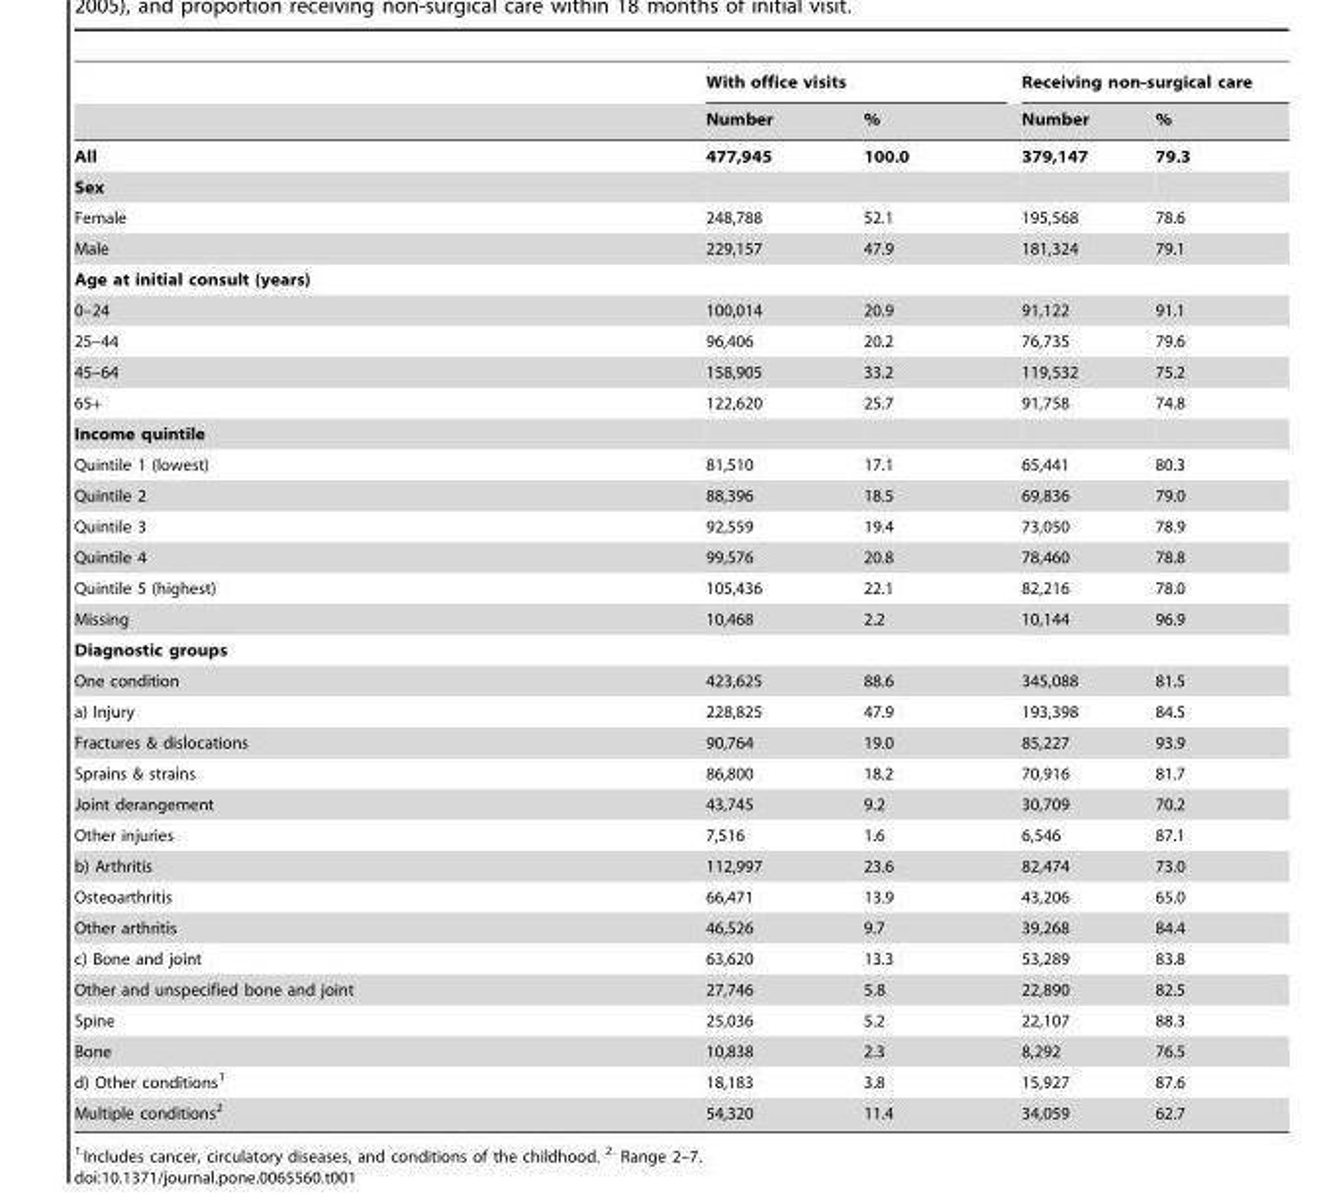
<table><thead><tr><td rowspan="2"></td><td colspan="2">With office visits</td><td colspan="2">Receiving non-surgical care</td></tr><tr><td>Number</td><td>%</td><td>Number</td><td>%</td></tr></thead><tbody><tr><td>All</td><td>477,945</td><td>100.0</td><td>379,147</td><td>79.3</td></tr><tr><td colspan="5">Sex</td></tr><tr><td>Female</td><td>248,788</td><td>52.1</td><td>195,568</td><td>78.6</td></tr><tr><td>Male</td><td>229,157</td><td>47.9</td><td>181,324</td><td>79.1</td></tr><tr><td colspan="5">Age at initial consult (years)</td></tr><tr><td>0–24</td><td>100,014</td><td>20.9</td><td>91,122</td><td>91.1</td></tr><tr><td>25–44</td><td>96,406</td><td>20.2</td><td>76,735</td><td>79.6</td></tr><tr><td>45–64</td><td>158,905</td><td>33.2</td><td>119,532</td><td>75.2</td></tr><tr><td>65+</td><td>122,620</td><td>25.7</td><td>91,758</td><td>74.8</td></tr><tr><td colspan="5">Income quintile</td></tr><tr><td>Quintile 1 (lowest)</td><td>81,510</td><td>17.1</td><td>65,441</td><td>80.3</td></tr><tr><td>Quintile 2</td><td>88,396</td><td>18.5</td><td>69,836</td><td>79.0</td></tr><tr><td>Quintile 3</td><td>92,559</td><td>19.4</td><td>73,050</td><td>78.9</td></tr><tr><td>Quintile 4</td><td>99,576</td><td>20.8</td><td>78,460</td><td>78.8</td></tr><tr><td>Quintile 5 (highest)</td><td>105,436</td><td>22.1</td><td>82,216</td><td>78.0</td></tr><tr><td>Missing</td><td>10,468</td><td>2.2</td><td>10,144</td><td>96.9</td></tr><tr><td colspan="5">Diagnostic groups</td></tr><tr><td>One condition</td><td>423,625</td><td>88.6</td><td>345,088</td><td>81.5</td></tr><tr><td>a) Injury</td><td>228,825</td><td>47.9</td><td>193,398</td><td>84.5</td></tr><tr><td>Fractures &amp; dislocations</td><td>90,764</td><td>19.0</td><td>85,227</td><td>93.9</td></tr><tr><td>Sprains &amp; strains</td><td>86,800</td><td>18.2</td><td>70,916</td><td>81.7</td></tr><tr><td>Joint derangement</td><td>43,745</td><td>9.2</td><td>30,709</td><td>70.2</td></tr><tr><td>Other injuries</td><td>7,516</td><td>1.6</td><td>6,546</td><td>87.1</td></tr><tr><td>b) Arthritis</td><td>112,997</td><td>23.6</td><td>82,474</td><td>73.0</td></tr><tr><td>Osteoarthritis</td><td>66,471</td><td>13.9</td><td>43,206</td><td>65.0</td></tr><tr><td>Other arthritis</td><td>46,526</td><td>9.7</td><td>39,268</td><td>84.4</td></tr><tr><td>c) Bone and joint</td><td>63,620</td><td>13.3</td><td>53,289</td><td>83.8</td></tr><tr><td>Other and unspecified bone and joint</td><td>27,746</td><td>5.8</td><td>22,890</td><td>82.5</td></tr><tr><td>Spine</td><td>25,036</td><td>5.2</td><td>22,107</td><td>88.3</td></tr><tr><td>Bone</td><td>10,838</td><td>2.3</td><td>8,292</td><td>76.5</td></tr><tr><td>d) Other conditions<sup>1</sup></td><td>18,183</td><td>3.8</td><td>15,927</td><td>87.6</td></tr><tr><td>Multiple conditions<sup>2</sup></td><td>54,320</td><td>11.4</td><td>34,059</td><td>62.7</td></tr></tbody></table>